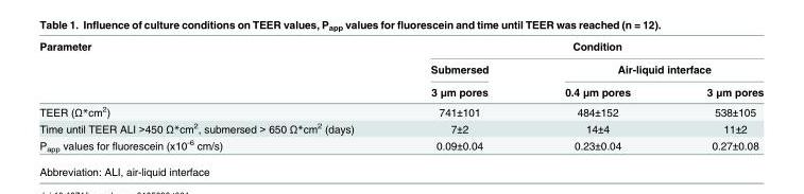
<table><thead><tr><td rowspan="3">Parameter</td><td colspan="3">Condition</td></tr><tr><td rowspan="2">Submersed 3 μm pores</td><td colspan="2">Air-liquid interface</td></tr><tr><td>0.4 μm pores</td><td>3 μm pores</td></tr></thead><tbody><tr><td>TEER (Ω*cm<sup>2</sup>)</td><td>741±101</td><td>484±152</td><td>538±105</td></tr><tr><td>Time until TEER ALI &gt;450 Ω*cm<sup>2</sup>, submersed &gt; 650 Ω*cm<sup>2</sup> (days)</td><td>7±2</td><td>14±4</td><td>11±2</td></tr><tr><td>P<sub>app</sub> values for fluorescein (x10<sup>-6</sup> cm/s)</td><td>0.09±0.04</td><td>0.23±0.04</td><td>0.27±0.08</td></tr></tbody></table>